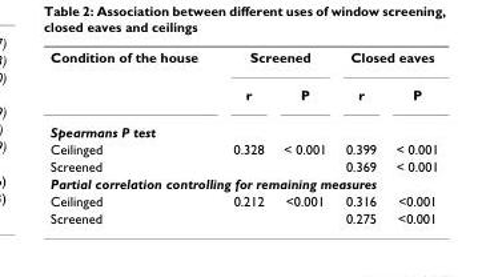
<table><tbody><tr><td rowspan="2">Condition of the house</td><td colspan="2">Screened</td><td colspan="2">Closed eaves</td></tr><tr><td>r</td><td>P</td><td>r</td><td>P</td></tr><tr><td colspan="5">Spearmans P test</td></tr><tr><td>Ceilinged</td><td>0.328</td><td>&lt; 0.001</td><td>0.399</td><td>&lt; 0.001</td></tr><tr><td>Screened</td><td></td><td></td><td>0.369</td><td>&lt; 0.001</td></tr><tr><td colspan="5">Partial correlation controlling for remaining measures</td></tr><tr><td>Ceilinged</td><td>0.212</td><td>&lt;0.001</td><td>0.316</td><td>&lt;0.001</td></tr><tr><td>Screened</td><td></td><td></td><td>0.275</td><td>&lt;0.001</td></tr></tbody></table>